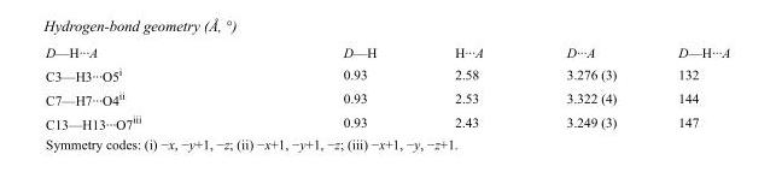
<table><tbody><tr><td>D—H···A</td><td>D—H</td><td>H···A</td><td>D···A</td><td>D—H···A</td></tr><tr><td>C3—H3···O5<sup>i</sup></td><td>0.93</td><td>2.58</td><td>3.276 (3)</td><td>132</td></tr><tr><td>C7—H7···O4<sup>ii</sup></td><td>0.93</td><td>2.53</td><td>3.322 (4)</td><td>144</td></tr><tr><td>C13—H13···O7<sup>iii</sup></td><td>0.93</td><td>2.43</td><td>3.249 (3)</td><td>147</td></tr></tbody></table>